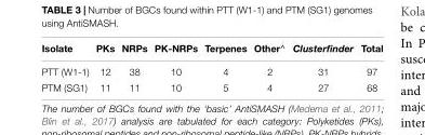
<table><thead><tr><td>Isolate</td><td>PKs</td><td>NRPs</td><td>PK-NRPs</td><td>Terpenes</td><td>Other<sup>∧</sup></td><td>Clusterfinder</td><td>Total</td></tr></thead><tbody><tr><td>PTT (W1-1)</td><td>12</td><td>38</td><td>10</td><td>4</td><td>2</td><td>31</td><td>97</td></tr><tr><td>PTM (SG1)</td><td>11</td><td>11</td><td>10</td><td>5</td><td>4</td><td>27</td><td>68</td></tr></tbody></table>